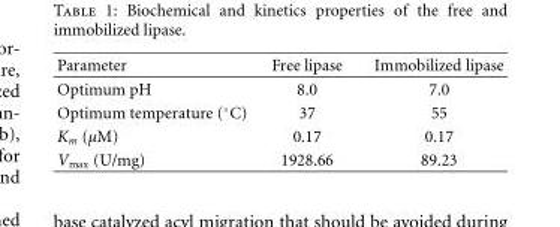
<table><thead><tr><td>Parameter</td><td>Free lipase</td><td>Immobilized lipase</td></tr></thead><tbody><tr><td>Optimum pH</td><td>8.0</td><td>7.0</td></tr><tr><td>Optimum temperature (◦C)</td><td>37</td><td>55</td></tr><tr><td>K<sub>m</sub> (μM)</td><td>0.17</td><td>0.17</td></tr><tr><td>V<sub>max</sub> (U/mg)</td><td>1928.66</td><td>89.23</td></tr></tbody></table>